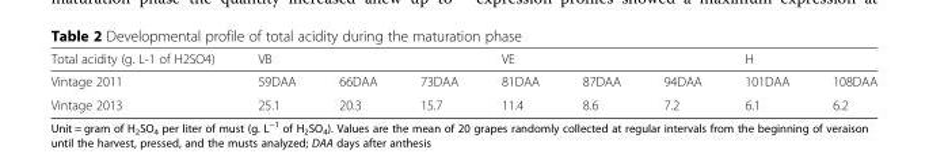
<table><thead><tr><td rowspan="2">Total acidity (g. L-1 of H2SO4) Vintage 2011</td><td colspan="3">VB</td><td colspan="3">VE</td><td colspan="2">H</td></tr><tr><td>59DAA</td><td>66DAA</td><td>73DAA</td><td>81DAA</td><td>87DAA</td><td>94DAA</td><td>101DAA</td><td>108DAA</td></tr></thead><tbody><tr><td>Vintage 2013</td><td>25.1</td><td>20.3</td><td>15.7</td><td>11.4</td><td>8.6</td><td>7.2</td><td>6.1</td><td>6.2</td></tr></tbody></table>